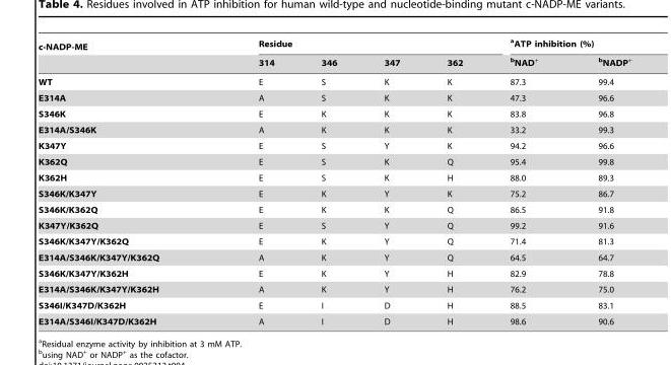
<table><thead><tr><td rowspan="2">c-NADP-ME</td><td colspan="4">Residue</td><td colspan="2">aATP inhibition (%)</td></tr><tr><td>314</td><td>346</td><td>347</td><td>362</td><td>bNAD<sup>+</sup></td><td>bNADP<sup>+</sup></td></tr></thead><tbody><tr><td>WT</td><td>E</td><td>S</td><td>K</td><td>K</td><td>87.3</td><td>99.4</td></tr><tr><td>E314A</td><td>A</td><td>S</td><td>K</td><td>K</td><td>47.3</td><td>96.6</td></tr><tr><td>S346K</td><td>E</td><td>K</td><td>K</td><td>K</td><td>83.8</td><td>96.8</td></tr><tr><td>E314A/S346K</td><td>A</td><td>K</td><td>K</td><td>K</td><td>33.2</td><td>99.3</td></tr><tr><td>K347Y</td><td>E</td><td>S</td><td>Y</td><td>K</td><td>94.2</td><td>96.6</td></tr><tr><td>K362Q</td><td>E</td><td>S</td><td>K</td><td>Q</td><td>95.4</td><td>99.8</td></tr><tr><td>K362H</td><td>E</td><td>S</td><td>K</td><td>H</td><td>88.0</td><td>89.3</td></tr><tr><td>S346K/K347Y</td><td>E</td><td>K</td><td>Y</td><td>K</td><td>75.2</td><td>86.7</td></tr><tr><td>S346K/K362Q</td><td>E</td><td>K</td><td>K</td><td>Q</td><td>86.5</td><td>91.8</td></tr><tr><td>K347Y/K362Q</td><td>E</td><td>S</td><td>Y</td><td>Q</td><td>99.2</td><td>91.6</td></tr><tr><td>S346K/K347Y/K362Q</td><td>E</td><td>K</td><td>Y</td><td>Q</td><td>71.4</td><td>81.3</td></tr><tr><td>E314A/S346K/K347Y/K362Q</td><td>A</td><td>K</td><td>Y</td><td>Q</td><td>64.5</td><td>64.7</td></tr><tr><td>S346K/K347Y/K362H</td><td>E</td><td>K</td><td>Y</td><td>H</td><td>82.9</td><td>78.8</td></tr><tr><td>E314A/S346K/K347Y/K362H</td><td>A</td><td>K</td><td>Y</td><td>H</td><td>76.2</td><td>75.0</td></tr><tr><td>S346I/K347D/K362H</td><td>E</td><td>I</td><td>D</td><td>H</td><td>88.5</td><td>83.1</td></tr><tr><td>E314A/S346I/K347D/K362H</td><td>A</td><td>I</td><td>D</td><td>H</td><td>98.6</td><td>90.6</td></tr></tbody></table>